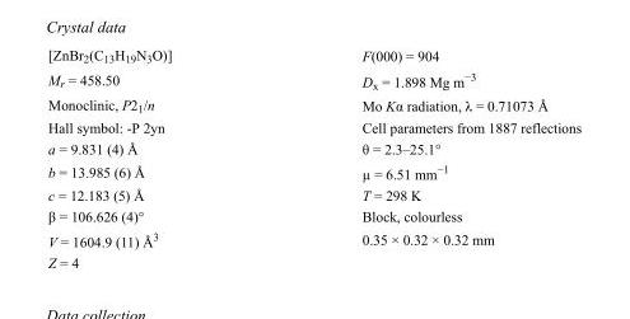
<table><tbody><tr><td>[ZnBr<sub>2</sub>(C<sub>13</sub>H<sub>19</sub>N<sub>3</sub>O)]</td><td>F(000) = 904</td></tr><tr><td>M<sub>r</sub> = 458.50</td><td>D<sub>x</sub> = 1.898 Mg m<sup>−3</sup></td></tr><tr><td>Monoclinic, P2<sub>1</sub>/n</td><td>Mo Kα radiation, λ = 0.71073 Å</td></tr><tr><td>Hall symbol: -P 2yn</td><td>Cell parameters from 1887 reflections</td></tr><tr><td>a = 9.831 (4) Å</td><td>θ = 2.3–25.1°</td></tr><tr><td>b = 13.985 (6) Å</td><td>µ = 6.51 mm<sup>−1</sup></td></tr><tr><td>c = 12.183 (5) Å</td><td>T = 298 K</td></tr><tr><td>β = 106.626 (4)°</td><td>Block, colourless</td></tr><tr><td>V = 1604.9 (11) Å<sup>3</sup></td><td>0.35 × 0.32 × 0.32 mm</td></tr><tr><td>Z = 4</td><td></td></tr></tbody></table>